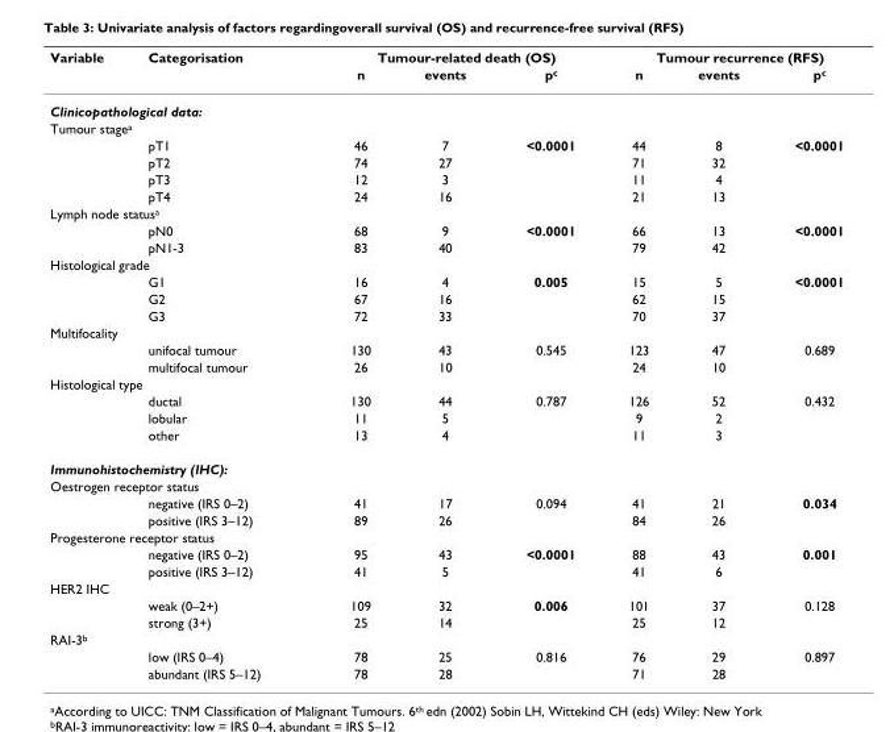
<table><thead><tr><td rowspan="2">Variable</td><td rowspan="2">Categorisation</td><td colspan="3">Tumour-related death (OS)</td><td colspan="3">Tumour recurrence (RFS)</td></tr><tr><td>n</td><td>events</td><td>p<sup>c</sup></td><td>n</td><td>events</td><td>p<sup>c</sup></td></tr></thead><tbody><tr><td colspan="8">Clinicopathological data:</td></tr><tr><td colspan="8">Tumour stage<sup>a</sup></td></tr><tr><td></td><td>pT1</td><td>46</td><td>7</td><td>&lt;0.0001</td><td>44</td><td>8</td><td>&lt;0.0001</td></tr><tr><td></td><td>pT2</td><td>74</td><td>27</td><td></td><td>71</td><td>32</td><td></td></tr><tr><td></td><td>pT3</td><td>12</td><td>3</td><td></td><td>11</td><td>4</td><td></td></tr><tr><td></td><td>pT4</td><td>24</td><td>16</td><td></td><td>21</td><td>13</td><td></td></tr><tr><td colspan="8">Lymph node status<sup>a</sup></td></tr><tr><td></td><td>pN0</td><td>68</td><td>9</td><td>&lt;0.0001</td><td>66</td><td>13</td><td>&lt;0.0001</td></tr><tr><td></td><td>pN1-3</td><td>83</td><td>40</td><td></td><td>79</td><td>42</td><td></td></tr><tr><td colspan="8">Histological grade</td></tr><tr><td></td><td>G1</td><td>16</td><td>4</td><td>0.005</td><td>15</td><td>5</td><td>&lt;0.0001</td></tr><tr><td></td><td>G2</td><td>67</td><td>16</td><td></td><td>62</td><td>15</td><td></td></tr><tr><td></td><td>G3</td><td>72</td><td>33</td><td></td><td>70</td><td>37</td><td></td></tr><tr><td colspan="8">Multifocality</td></tr><tr><td></td><td>unifocal tumour</td><td>130</td><td>43</td><td>0.545</td><td>123</td><td>47</td><td>0.689</td></tr><tr><td></td><td>multifocal tumour</td><td>26</td><td>10</td><td></td><td>24</td><td>10</td><td></td></tr><tr><td colspan="8">Histological type</td></tr><tr><td></td><td>ductal</td><td>130</td><td>44</td><td>0.787</td><td>126</td><td>52</td><td>0.432</td></tr><tr><td></td><td>lobular</td><td>11</td><td>5</td><td></td><td>9</td><td>2</td><td></td></tr><tr><td></td><td>other</td><td>13</td><td>4</td><td></td><td>11</td><td>3</td><td></td></tr><tr><td colspan="8">Immunohistochemistry (IHC):</td></tr><tr><td colspan="8">Oestrogen receptor status</td></tr><tr><td></td><td>negative (IRS 0–2)</td><td>41</td><td>17</td><td>0.094</td><td>41</td><td>21</td><td>0.034</td></tr><tr><td></td><td>positive (IRS 3–12)</td><td>89</td><td>26</td><td></td><td>84</td><td>26</td><td></td></tr><tr><td colspan="8">Progesterone receptor status</td></tr><tr><td></td><td>negative (IRS 0–2)</td><td>95</td><td>43</td><td>&lt;0.0001</td><td>88</td><td>43</td><td>0.001</td></tr><tr><td></td><td>positive (IRS 3–12)</td><td>41</td><td>5</td><td></td><td>41</td><td>6</td><td></td></tr><tr><td colspan="8">HER2 IHC</td></tr><tr><td></td><td>weak (0–2+)</td><td>109</td><td>32</td><td>0.006</td><td>101</td><td>37</td><td>0.128</td></tr><tr><td></td><td>strong (3+)</td><td>25</td><td>14</td><td></td><td>25</td><td>12</td><td></td></tr><tr><td colspan="8">RAI-3<sup>b</sup></td></tr><tr><td></td><td>low (IRS 0–4)</td><td>78</td><td>25</td><td>0.816</td><td>76</td><td>29</td><td>0.897</td></tr><tr><td></td><td>abundant (IRS 5–12)</td><td>78</td><td>28</td><td></td><td>71</td><td>28</td><td></td></tr></tbody></table>